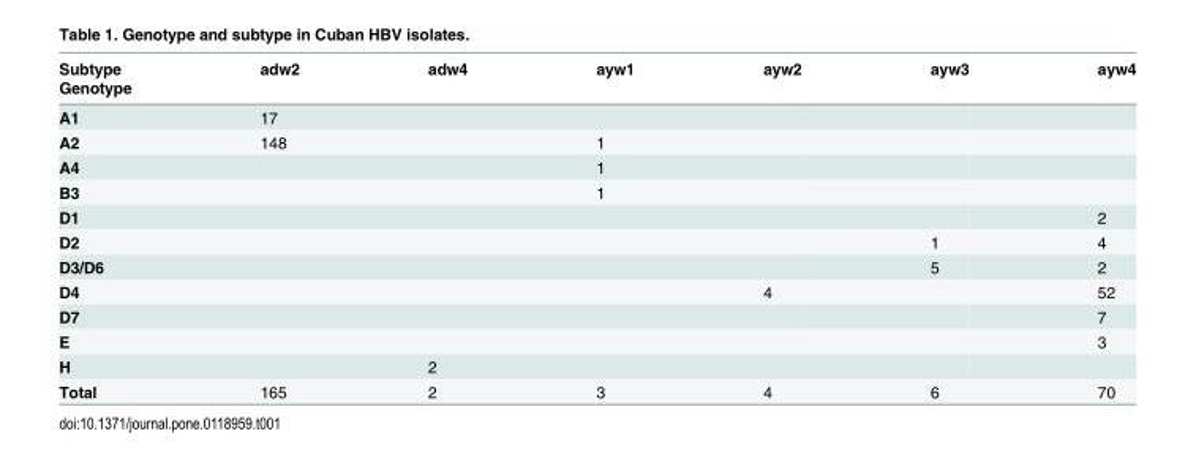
<table><thead><tr><td rowspan="2">Subtype Genotype</td><td rowspan="2">adw2</td><td rowspan="2">adw4</td><td rowspan="2">ayw1</td><td rowspan="2">ayw2</td><td rowspan="2">ayw3</td><td rowspan="2">ayw4</td></tr><tr></tr></thead><tbody><tr><td>A1</td><td>17</td><td></td><td></td><td></td><td></td><td></td></tr><tr><td>A2</td><td>148</td><td></td><td>1</td><td></td><td></td><td></td></tr><tr><td>A4</td><td></td><td></td><td>1</td><td></td><td></td><td></td></tr><tr><td>B3</td><td></td><td></td><td>1</td><td></td><td></td><td></td></tr><tr><td>D1</td><td></td><td></td><td></td><td></td><td></td><td>2</td></tr><tr><td>D2</td><td></td><td></td><td></td><td></td><td>1</td><td>4</td></tr><tr><td>D3/D6</td><td></td><td></td><td></td><td></td><td>5</td><td>2</td></tr><tr><td>D4</td><td></td><td></td><td></td><td>4</td><td></td><td>52</td></tr><tr><td>D7</td><td></td><td></td><td></td><td></td><td></td><td>7</td></tr><tr><td>E</td><td></td><td></td><td></td><td></td><td></td><td>3</td></tr><tr><td>H</td><td></td><td>2</td><td></td><td></td><td></td><td></td></tr><tr><td>Total</td><td>165</td><td>2</td><td>3</td><td>4</td><td>6</td><td>70</td></tr></tbody></table>